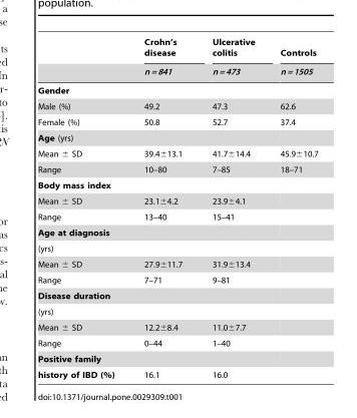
<table><thead><tr><td rowspan="2"></td><td rowspan="2">Crohn’s disease n = 841</td><td rowspan="2">Ulcerative colitis n = 473</td><td rowspan="2">Controls n = 1505</td></tr><tr></tr></thead><tbody><tr><td colspan="4">Gender</td></tr><tr><td>Male (%)</td><td>49.2</td><td>47.3</td><td>62.6</td></tr><tr><td>Female (%)</td><td>50.8</td><td>52.7</td><td>37.4</td></tr><tr><td colspan="4">Age (yrs)</td></tr><tr><td>Mean ± SD</td><td>39.4±13.1</td><td>41.7±14.4</td><td>45.9±10.7</td></tr><tr><td>Range</td><td>10–80</td><td>7–85</td><td>18–71</td></tr><tr><td colspan="4">Body mass index</td></tr><tr><td>Mean ± SD</td><td>23.1±4.2</td><td>23.9±4.1</td><td></td></tr><tr><td>Range</td><td>13–40</td><td>15–41</td><td></td></tr><tr><td colspan="4">Age at diagnosis</td></tr><tr><td colspan="4">(yrs)</td></tr><tr><td>Mean ± SD</td><td>27.9±11.7</td><td>31.9±13.4</td><td></td></tr><tr><td>Range</td><td>7–71</td><td>9–81</td><td></td></tr><tr><td colspan="4">Disease duration</td></tr><tr><td colspan="4">(yrs)</td></tr><tr><td>Mean ± SD</td><td>12.2±8.4</td><td>11.0±7.7</td><td></td></tr><tr><td>Range</td><td>0–44</td><td>1–40</td><td></td></tr><tr><td colspan="4">Positive family</td></tr><tr><td>history of IBD (%)</td><td>16.1</td><td>16.0</td><td></td></tr></tbody></table>